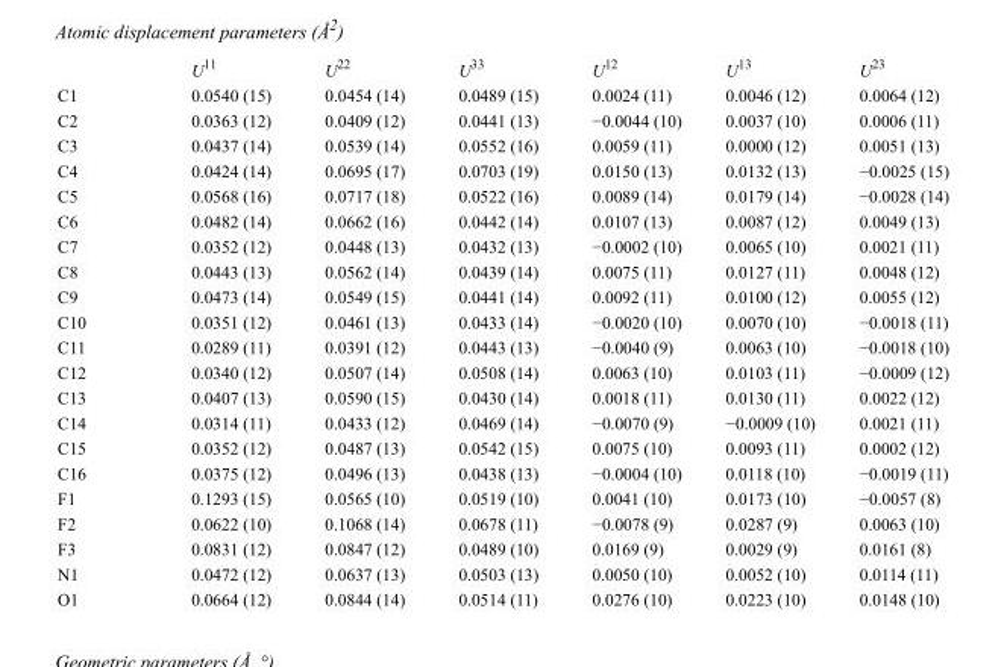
<table><thead><tr><td></td><td>U<sup>11</sup></td><td>U<sup>22</sup></td><td>U<sup>33</sup></td><td>U<sup>12</sup></td><td>U<sup>13</sup></td><td>U<sup>23</sup></td></tr></thead><tbody><tr><td>C1</td><td>0.0540 (15)</td><td>0.0454 (14)</td><td>0.0489 (15)</td><td>0.0024 (11)</td><td>0.0046 (12)</td><td>0.0064 (12)</td></tr><tr><td>C2</td><td>0.0363 (12)</td><td>0.0409 (12)</td><td>0.0441 (13)</td><td>−0.0044 (10)</td><td>0.0037 (10)</td><td>0.0006 (11)</td></tr><tr><td>C3</td><td>0.0437 (14)</td><td>0.0539 (14)</td><td>0.0552 (16)</td><td>0.0059 (11)</td><td>0.0000 (12)</td><td>0.0051 (13)</td></tr><tr><td>C4</td><td>0.0424 (14)</td><td>0.0695 (17)</td><td>0.0703 (19)</td><td>0.0150 (13)</td><td>0.0132 (13)</td><td>−0.0025 (15)</td></tr><tr><td>C5</td><td>0.0568 (16)</td><td>0.0717 (18)</td><td>0.0522 (16)</td><td>0.0089 (14)</td><td>0.0179 (14)</td><td>−0.0028 (14)</td></tr><tr><td>C6</td><td>0.0482 (14)</td><td>0.0662 (16)</td><td>0.0442 (14)</td><td>0.0107 (13)</td><td>0.0087 (12)</td><td>0.0049 (13)</td></tr><tr><td>C7</td><td>0.0352 (12)</td><td>0.0448 (13)</td><td>0.0432 (13)</td><td>−0.0002 (10)</td><td>0.0065 (10)</td><td>0.0021 (11)</td></tr><tr><td>C8</td><td>0.0443 (13)</td><td>0.0562 (14)</td><td>0.0439 (14)</td><td>0.0075 (11)</td><td>0.0127 (11)</td><td>0.0048 (12)</td></tr><tr><td>C9</td><td>0.0473 (14)</td><td>0.0549 (15)</td><td>0.0441 (14)</td><td>0.0092 (11)</td><td>0.0100 (12)</td><td>0.0055 (12)</td></tr><tr><td>C10</td><td>0.0351 (12)</td><td>0.0461 (13)</td><td>0.0433 (14)</td><td>−0.0020 (10)</td><td>0.0070 (10)</td><td>−0.0018 (11)</td></tr><tr><td>C11</td><td>0.0289 (11)</td><td>0.0391 (12)</td><td>0.0443 (13)</td><td>−0.0040 (9)</td><td>0.0063 (10)</td><td>−0.0018 (10)</td></tr><tr><td>C12</td><td>0.0340 (12)</td><td>0.0507 (14)</td><td>0.0508 (14)</td><td>0.0063 (10)</td><td>0.0103 (11)</td><td>−0.0009 (12)</td></tr><tr><td>C13</td><td>0.0407 (13)</td><td>0.0590 (15)</td><td>0.0430 (14)</td><td>0.0018 (11)</td><td>0.0130 (11)</td><td>0.0022 (12)</td></tr><tr><td>C14</td><td>0.0314 (11)</td><td>0.0433 (12)</td><td>0.0469 (14)</td><td>−0.0070 (9)</td><td>−0.0009 (10)</td><td>0.0021 (11)</td></tr><tr><td>C15</td><td>0.0352 (12)</td><td>0.0487 (13)</td><td>0.0542 (15)</td><td>0.0075 (10)</td><td>0.0093 (11)</td><td>0.0002 (12)</td></tr><tr><td>C16</td><td>0.0375 (12)</td><td>0.0496 (13)</td><td>0.0438 (13)</td><td>−0.0004 (10)</td><td>0.0118 (10)</td><td>−0.0019 (11)</td></tr><tr><td>F1</td><td>0.1293 (15)</td><td>0.0565 (10)</td><td>0.0519 (10)</td><td>0.0041 (10)</td><td>0.0173 (10)</td><td>−0.0057 (8)</td></tr><tr><td>F2</td><td>0.0622 (10)</td><td>0.1068 (14)</td><td>0.0678 (11)</td><td>−0.0078 (9)</td><td>0.0287 (9)</td><td>0.0063 (10)</td></tr><tr><td>F3</td><td>0.0831 (12)</td><td>0.0847 (12)</td><td>0.0489 (10)</td><td>0.0169 (9)</td><td>0.0029 (9)</td><td>0.0161 (8)</td></tr><tr><td>N1</td><td>0.0472 (12)</td><td>0.0637 (13)</td><td>0.0503 (13)</td><td>0.0050 (10)</td><td>0.0052 (10)</td><td>0.0114 (11)</td></tr><tr><td>O1</td><td>0.0664 (12)</td><td>0.0844 (14)</td><td>0.0514 (11)</td><td>0.0276 (10)</td><td>0.0223 (10)</td><td>0.0148 (10)</td></tr></tbody></table>